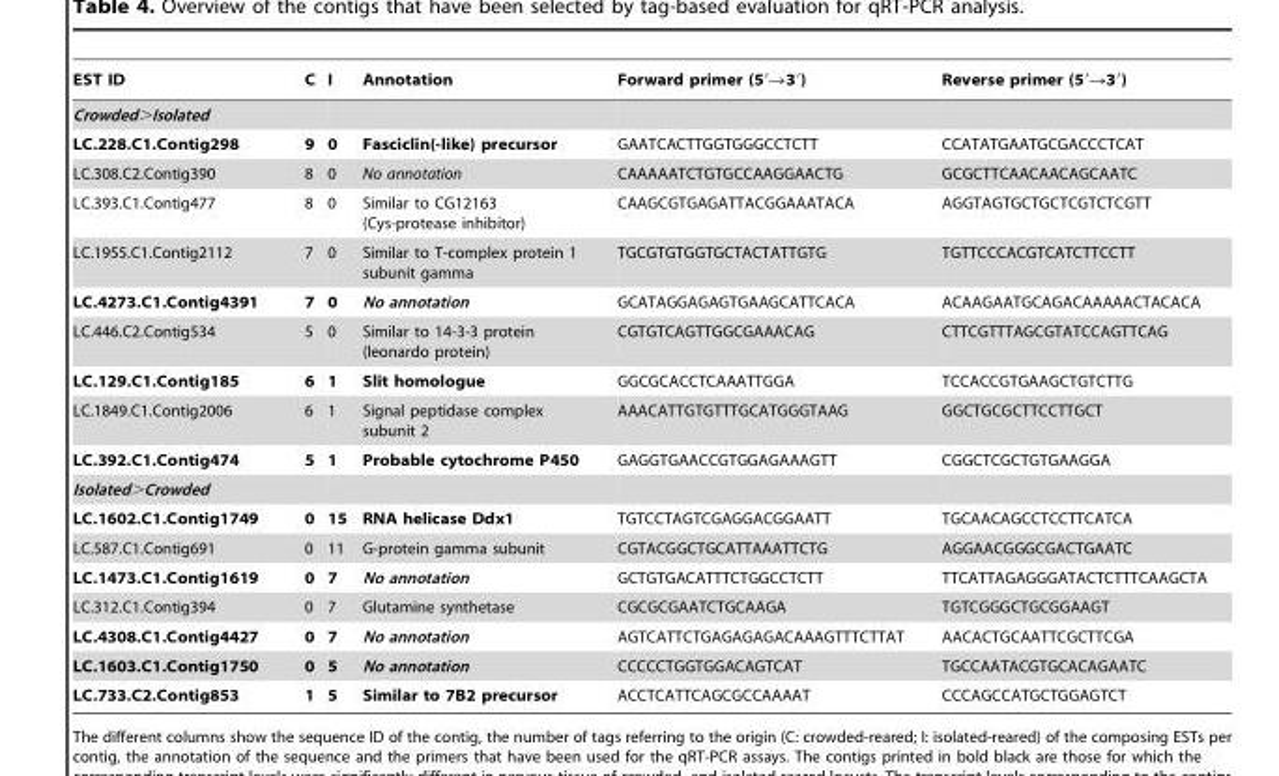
<table><thead><tr><td>EST ID</td><td>C</td><td>I</td><td>Annotation</td><td>Forward primer (5′→3′)</td><td>Reverse primer (5′→3′)</td></tr></thead><tbody><tr><td colspan="6">Crowded&gt;Isolated</td></tr><tr><td>LC.228.C1.Contig298</td><td>9</td><td>0</td><td>Fasciclin(-like) precursor</td><td>GAATCACTTGGTGGGCCTCTT</td><td>CCATATGAATGCGACCCTCAT</td></tr><tr><td>LC.308.C2.Contig390</td><td>8</td><td>0</td><td>No annotation</td><td>CAAAAATCTGTGCCAAGGAACTG</td><td>GCGCTTCAACAACAGCAATC</td></tr><tr><td>LC.393.C1.Contig477</td><td>8</td><td>0</td><td>Similar to CG12163 (Cys-protease inhibitor)</td><td>CAAGCGTGAGATTACGGAAATACA</td><td>AGGTAGTGCTGCTCGTCTCGTT</td></tr><tr><td>LC.1955.C1.Contig2112</td><td>7</td><td>0</td><td>Similar to T-complex protein 1 subunit gamma</td><td>TGCGTGTGGTGCTACTATTGTG</td><td>TGTTCCCACGTCATCTTCCTT</td></tr><tr><td>LC.4273.C1.Contig4391</td><td>7</td><td>0</td><td>No annotation</td><td>GCATAGGAGAGTGAAGCATTCACA</td><td>ACAAGAATGCAGACAAAAACTACACA</td></tr><tr><td>LC.446.C2.Contig534</td><td>5</td><td>0</td><td>Similar to 14-3-3 protein (leonardo protein)</td><td>CGTGTCAGTTGGCGAAACAG</td><td>CTTCGTTTAGCGTATCCAGTTCAG</td></tr><tr><td>LC.129.C1.Contig185</td><td>6</td><td>1</td><td>Slit homologue</td><td>GGCGCACCTCAAATTGGA</td><td>TCCACCGTGAAGCTGTCTTG</td></tr><tr><td>LC.1849.C1.Contig2006</td><td>6</td><td>1</td><td>Signal peptidase complex subunit 2</td><td>AAACATTGTGTTTGCATGGGTAAG</td><td>GGCTGCGCTTCCTTGCT</td></tr><tr><td>LC.392.C1.Contig474</td><td>5</td><td>1</td><td>Probable cytochrome P450</td><td>GAGGTGAACCGTGGAGAAAGTT</td><td>CGGCTCGCTGTGAAGGA</td></tr><tr><td colspan="6">Isolated&gt;Crowded</td></tr><tr><td>LC.1602.C1.Contig1749</td><td>0</td><td>15</td><td>RNA helicase Ddx1</td><td>TGTCCTAGTCGAGGACGGAATT</td><td>TGCAACAGCCTCCTTCATCA</td></tr><tr><td>LC.587.C1.Contig691</td><td>0</td><td>11</td><td>G-protein gamma subunit</td><td>CGTACGGCTGCATTAAATTCTG</td><td>AGGAACGGGCGACTGAATC</td></tr><tr><td>LC.1473.C1.Contig1619</td><td>0</td><td>7</td><td>No annotation</td><td>GCTGTGACATTTCTGGCCTCTT</td><td>TTCATTAGAGGGATACTCTTTCAAGCTA</td></tr><tr><td>LC.312.C1.Contig394</td><td>0</td><td>7</td><td>Glutamine synthetase</td><td>CGCGCGAATCTGCAAGA</td><td>TGTCGGGCTGCGGAAGT</td></tr><tr><td>LC.4308.C1.Contig4427</td><td>0</td><td>7</td><td>No annotation</td><td>AGTCATTCTGAGAGAGACAAAGTTTCTTAT</td><td>AACACTGCAATTCGCTTCGA</td></tr><tr><td>LC.1603.C1.Contig1750</td><td>0</td><td>5</td><td>No annotation</td><td>CCCCCTGGTGGACAGTCAT</td><td>TGCCAATACGTGCACAGAATC</td></tr><tr><td>LC.733.C2.Contig853</td><td>1</td><td>5</td><td>Similar to 7B2 precursor</td><td>ACCTCATTCAGCGCCAAAAT</td><td>CCCAGCCATGCTGGAGTCT</td></tr></tbody></table>